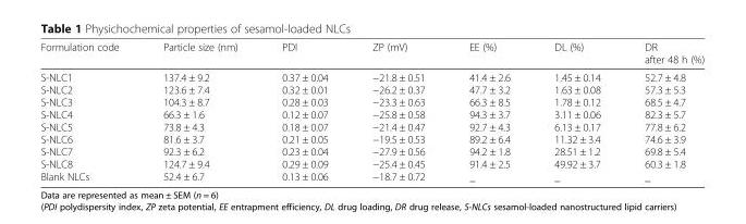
<table><thead><tr><td>Formulation code</td><td>Particle size (nm)</td><td>PDI</td><td>ZP (mV)</td><td>EE (%)</td><td>DL (%)</td><td>DR after 48 h (%)</td></tr></thead><tbody><tr><td>S-NLC1 S-NLC2 S-NLC3 S-NLC4 S-NLC5 S-NLC6 S-NLC7 S-NLC8 Blank NLCs</td><td>137.4 ± 9.2 123.6 ± 7.4 104.3 ± 8.7 66.3 ± 1.6 73.8 ± 4.3 81.6 ± 3.7 92.3 ± 6.2 124.7 ± 9.4 52.4 ± 6.7</td><td>0.37 ± 0.04 0.32 ± 0.01 0.28 ± 0.03 0.12 ± 0.07 0.18 ± 0.07 0.21 ± 0.05 0.23 ± 0.04 0.29 ± 0.09 0.13 ± 0.06</td><td>−21.8 ± 0.51 −26.2 ± 0.37 −23.3 ± 0.63 −25.8 ± 0.58 −21.4 ± 0.47 −19.5 ± 0.53 −27.9 ± 0.56 −25.4 ± 0.45 −18.7 ± 0.72</td><td>41.4 ± 2.6 47.7 ± 3.2 66.3 ± 8.5 94.3 ± 3.7 92.7 ± 4.3 89.2 ± 6.4 94.2 ± 1.8 91.4 ± 2.5 _</td><td>1.45 ± 0.14 1.63 ± 0.08 1.78 ± 0.12 3.11 ± 0.06 6.13 ± 0.17 11.32 ± 3.4 28.51 ± 1.2 49.92 ± 3.7 _</td><td>52.7 ± 4.8 57.3 ± 5.3 68.5 ± 4.7 82.3 ± 5.7 77.8 ± 6.2 74.6 ± 3.9 69.8 ± 5.4 60.3 ± 1.8 _</td></tr></tbody></table>